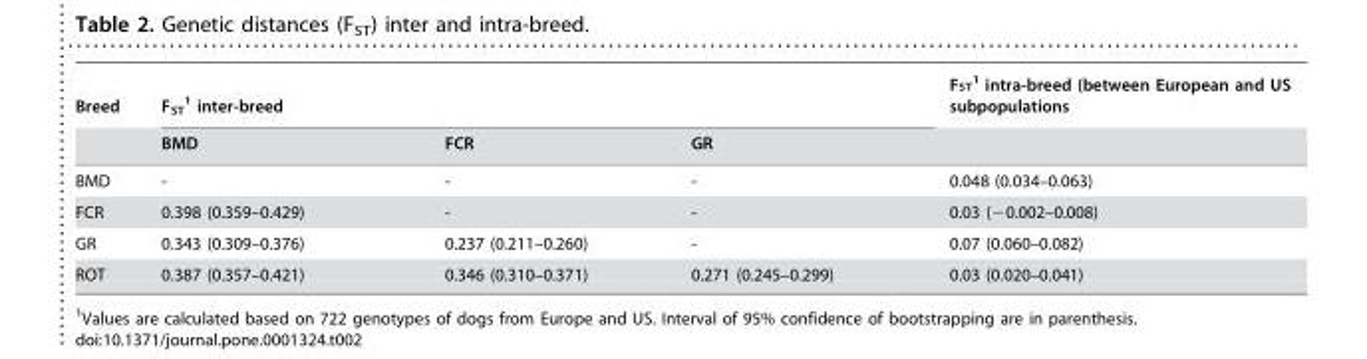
<table><thead><tr><td rowspan="2">Breed</td><td colspan="3">F<sub>ST</sub> 1 inter-breed</td><td rowspan="2">F<sub>ST</sub>1 intra-breed (between European and US subpopulations</td></tr><tr><td>BMD</td><td>FCR</td><td>GR</td></tr></thead><tbody><tr><td>BMD</td><td>-</td><td>-</td><td>-</td><td>0.048 (0.034–0.063)</td></tr><tr><td>FCR</td><td>0.398 (0.359–0.429)</td><td>-</td><td>-</td><td>0.03 (−0.002–0.008)</td></tr><tr><td>GR</td><td>0.343 (0.309–0.376)</td><td>0.237 (0.211–0.260)</td><td>-</td><td>0.07 (0.060–0.082)</td></tr><tr><td>ROT</td><td>0.387 (0.357–0.421)</td><td>0.346 (0.310–0.371)</td><td>0.271 (0.245–0.299)</td><td>0.03 (0.020–0.041)</td></tr></tbody></table>